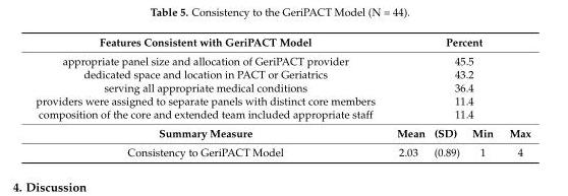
<table><thead><tr><td>Features Consistent with GeriPACT Model</td><td colspan="4">Percent</td></tr></thead><tbody><tr><td>appropriate panel size and allocation of GeriPACT provider</td><td colspan="4">45.5</td></tr><tr><td>dedicated space and location in PACT or Geriatrics</td><td colspan="4">43.2</td></tr><tr><td>serving all appropriate medical conditions</td><td colspan="4">36.4</td></tr><tr><td>providers were assigned to separate panels with distinct core members</td><td colspan="4">11.4</td></tr><tr><td>composition of the core and extended team included appropriate staff</td><td colspan="4">11.4</td></tr><tr><td>Summary Measure</td><td>Mean</td><td>(SD)</td><td>Min</td><td>Max</td></tr><tr><td>Consistency to GeriPACT Model</td><td>2.03</td><td>(0.89)</td><td>1</td><td>4</td></tr></tbody></table>